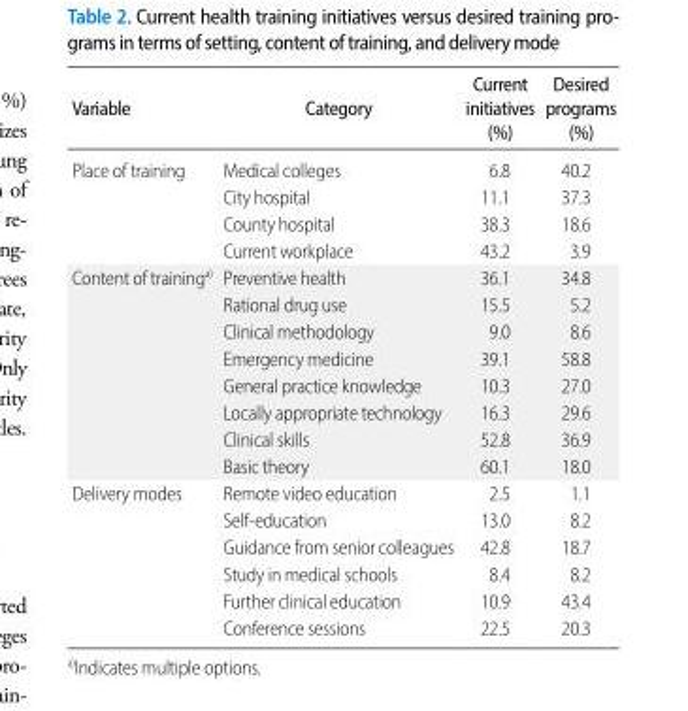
<table><thead><tr><td>Variable</td><td>Category</td><td>Current initiatives (%)</td><td>Desired programs (%)</td></tr></thead><tbody><tr><td rowspan="4">Place of training</td><td>Medical colleges</td><td>6.8</td><td>40.2</td></tr><tr><td>City hospital</td><td>11.1</td><td>37.3</td></tr><tr><td>County hospital</td><td>38.3</td><td>18.6</td></tr><tr><td>Current workplace</td><td>43.2</td><td>3.9</td></tr><tr><td rowspan="8">Content of training<sup>a)</sup></td><td>Preventive health</td><td>36.1</td><td>34.8</td></tr><tr><td>Rational drug use</td><td>15.5</td><td>5.2</td></tr><tr><td>Clinical methodology</td><td>9.0</td><td>8.6</td></tr><tr><td>Emergency medicine</td><td>39.1</td><td>58.8</td></tr><tr><td>General practice knowledge</td><td>10.3</td><td>27.0</td></tr><tr><td>Locally appropriate technology</td><td>16.3</td><td>29.6</td></tr><tr><td>Clinical skills</td><td>52.8</td><td>36.9</td></tr><tr><td>Basic theory</td><td>60.1</td><td>18.0</td></tr><tr><td rowspan="6">Delivery modes</td><td>Remote video education</td><td>2.5</td><td>1.1</td></tr><tr><td>Self-education</td><td>13.0</td><td>8.2</td></tr><tr><td>Guidance from senior colleagues</td><td>42.8</td><td>18.7</td></tr><tr><td>Study in medical schools</td><td>8.4</td><td>8.2</td></tr><tr><td>Further clinical education</td><td>10.9</td><td>43.4</td></tr><tr><td>Conference sessions</td><td>22.5</td><td>20.3</td></tr></tbody></table>